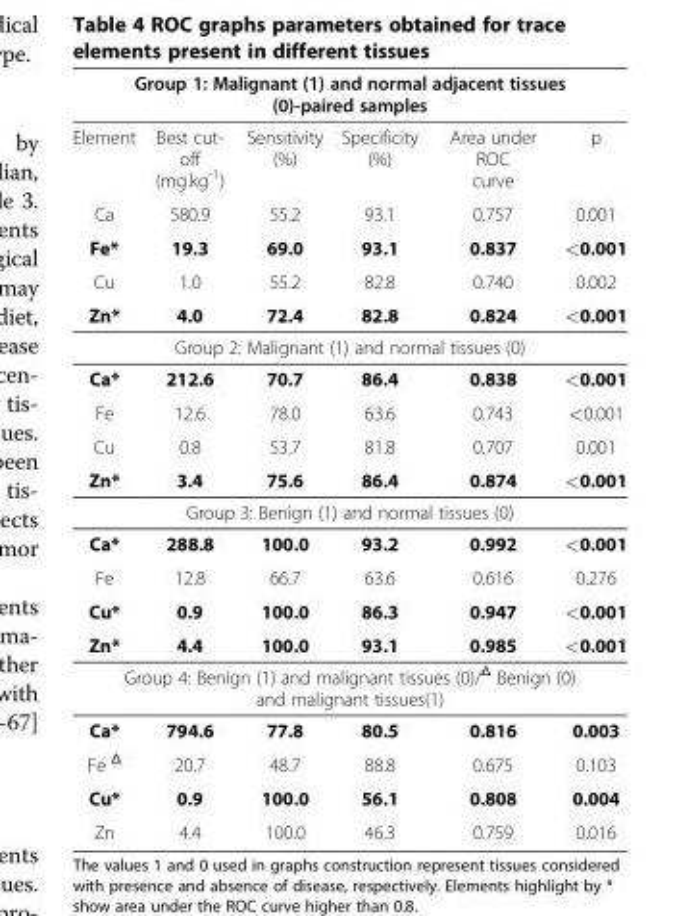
<table><thead><tr><td colspan="6">Group 1: Malignant (1) and normal adjacent tissues (0)-paired samples</td></tr><tr><td>Element</td><td>Best cut- off (mg.kg<sup>-1</sup>)</td><td>Sensitivity (%)</td><td>Specificity (%)</td><td>Area under ROC curve</td><td>p</td></tr></thead><tbody><tr><td>Ca</td><td>580.9</td><td>55.2</td><td>93.1</td><td>0.757</td><td>0.001</td></tr><tr><td>Fe*</td><td>19.3</td><td>69.0</td><td>93.1</td><td>0.837</td><td>&lt;0.001</td></tr><tr><td>Cu</td><td>1.0</td><td>55.2</td><td>82.8</td><td>0.740</td><td>0.002</td></tr><tr><td>Zn*</td><td>4.0</td><td>72.4</td><td>82.8</td><td>0.824</td><td>&lt;0.001</td></tr><tr><td colspan="6">Group 2: Malignant (1) and normal tissues (0)</td></tr><tr><td>Ca*</td><td>212.6</td><td>70.7</td><td>86.4</td><td>0.838</td><td>&lt;0.001</td></tr><tr><td>Fe</td><td>12.6</td><td>78.0</td><td>63.6</td><td>0.743</td><td>&lt;0.001</td></tr><tr><td>Cu</td><td>0.8</td><td>53.7</td><td>81.8</td><td>0.707</td><td>0.001</td></tr><tr><td>Zn*</td><td>3.4</td><td>75.6</td><td>86.4</td><td>0.874</td><td>&lt;0.001</td></tr><tr><td colspan="6">Group 3: Benign (1) and normal tissues (0)</td></tr><tr><td>Ca*</td><td>288.8</td><td>100.0</td><td>93.2</td><td>0.992</td><td>&lt;0.001</td></tr><tr><td>Fe</td><td>12.8</td><td>66.7</td><td>63.6</td><td>0.616</td><td>0.276</td></tr><tr><td>Cu*</td><td>0.9</td><td>100.0</td><td>86.3</td><td>0.947</td><td>&lt;0.001</td></tr><tr><td>Zn*</td><td>4.4</td><td>100.0</td><td>93.1</td><td>0.985</td><td>&lt;0.001</td></tr><tr><td colspan="6">Group 4: Benign (1) and malignant tissues (0)/<sup>Δ</sup> Benign (0) and malignant tissues(1)</td></tr><tr><td>Ca*</td><td>794.6</td><td>77.8</td><td>80.5</td><td>0.816</td><td>0.003</td></tr><tr><td>Fe <sup>Δ</sup></td><td>20.7</td><td>48.7</td><td>88.8</td><td>0.675</td><td>0.103</td></tr><tr><td>Cu*</td><td>0.9</td><td>100.0</td><td>56.1</td><td>0.808</td><td>0.004</td></tr><tr><td>Zn</td><td>4.4</td><td>100.0</td><td>46.3</td><td>0.759</td><td>0.016</td></tr></tbody></table>